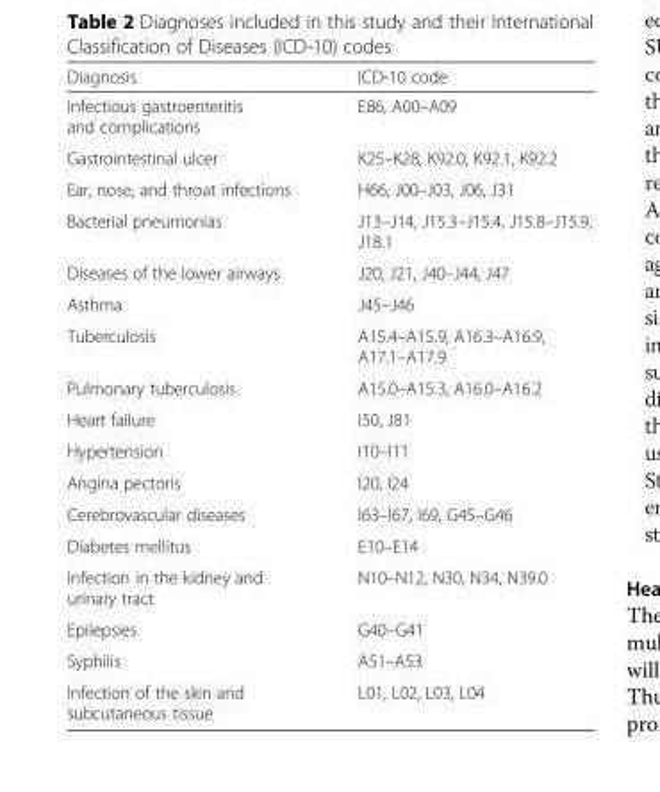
<table><thead><tr><td>Diagnosis</td><td>ICD-10 code</td></tr></thead><tbody><tr><td>Infectious gastroenteritis and complications</td><td>E86, A00–A09</td></tr><tr><td>Gastrointestinal ulcer</td><td>K25–K28, K92.0, K92.1, K92.2</td></tr><tr><td>Ear, nose, and throat infections</td><td>H66, J00–J03, J06, J31</td></tr><tr><td>Bacterial pneumonias</td><td>J13–J14, J15.3–J15.4, J15.8–J15.9, J18.1</td></tr><tr><td>Diseases of the lower airways</td><td>J20, J21, J40–J44, J47</td></tr><tr><td>Asthma</td><td>J45–J46</td></tr><tr><td>Tuberculosis</td><td>A15.4–A15.9, A16.3–A16.9, A17.1–A17.9</td></tr><tr><td>Pulmonary tuberculosis</td><td>A15.0–A15.3, A16.0–A16.2</td></tr><tr><td>Heart failure</td><td>I50, J81</td></tr><tr><td>Hypertension</td><td>I10–I11</td></tr><tr><td>Angina pectoris</td><td>I20, I24</td></tr><tr><td>Cerebrovascular diseases</td><td>I63–I67, I69, G45–G46</td></tr><tr><td>Diabetes mellitus</td><td>E10–E14</td></tr><tr><td>Infection in the kidney and urinary tract</td><td>N10–N12, N30, N34, N39.0</td></tr><tr><td>Epilepsies</td><td>G40–G41</td></tr><tr><td>Syphilis</td><td>A51–A53</td></tr><tr><td>Infection of the skin and subcutaneous tissue</td><td>L01, L02, L03, L04</td></tr></tbody></table>